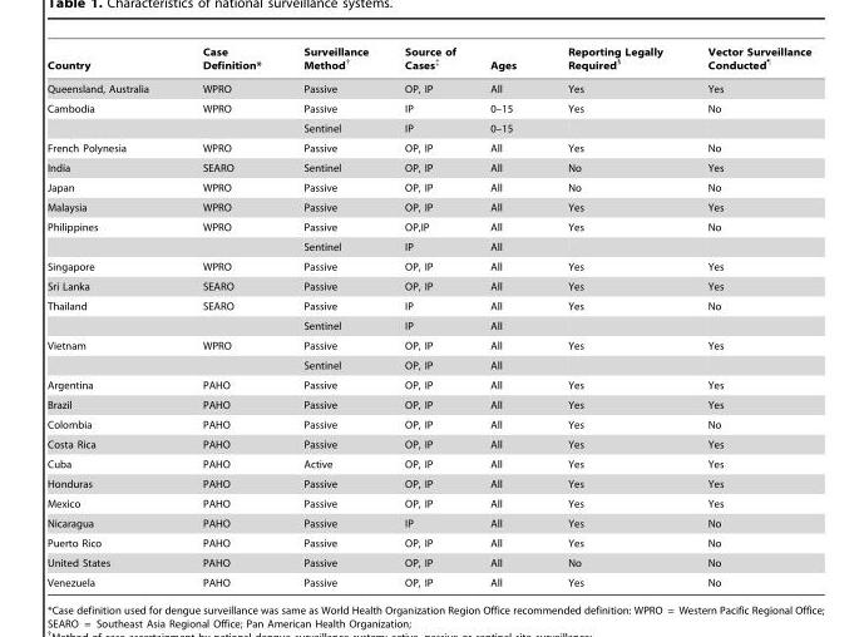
<table><thead><tr><td>Country</td><td>Case Definition*</td><td>Surveillance Method†</td><td>Source of Cases‡</td><td>Ages</td><td>Reporting Legally Required§</td><td>Vector Surveillance Conducted¶</td></tr></thead><tbody><tr><td>Queensland, Australia</td><td>WPRO</td><td>Passive</td><td>OP, IP</td><td>All</td><td>Yes</td><td>Yes</td></tr><tr><td rowspan="2">Cambodia</td><td>WPRO</td><td>Passive</td><td>IP</td><td>0–15</td><td>Yes</td><td>No</td></tr><tr><td></td><td>Sentinel</td><td>IP</td><td>0–15</td><td></td><td></td></tr><tr><td>French Polynesia</td><td>WPRO</td><td>Passive</td><td>OP, IP</td><td>All</td><td>Yes</td><td>No</td></tr><tr><td>India</td><td>SEARO</td><td>Sentinel</td><td>OP, IP</td><td>All</td><td>No</td><td>Yes</td></tr><tr><td>Japan</td><td>WPRO</td><td>Passive</td><td>OP, IP</td><td>All</td><td>No</td><td>No</td></tr><tr><td>Malaysia</td><td>WPRO</td><td>Passive</td><td>OP, IP</td><td>All</td><td>Yes</td><td>Yes</td></tr><tr><td rowspan="2">Philippines</td><td>WPRO</td><td>Passive</td><td>OP,IP</td><td>All</td><td>Yes</td><td>No</td></tr><tr><td></td><td>Sentinel</td><td>IP</td><td>All</td><td></td><td></td></tr><tr><td>Singapore</td><td>WPRO</td><td>Passive</td><td>OP, IP</td><td>All</td><td>Yes</td><td>Yes</td></tr><tr><td>Sri Lanka</td><td>SEARO</td><td>Passive</td><td>OP, IP</td><td>All</td><td>Yes</td><td>Yes</td></tr><tr><td rowspan="2">Thailand</td><td>SEARO</td><td>Passive</td><td>IP</td><td>All</td><td>Yes</td><td>No</td></tr><tr><td></td><td>Sentinel</td><td>IP</td><td>All</td><td></td><td></td></tr><tr><td rowspan="2">Vietnam</td><td>WPRO</td><td>Passive</td><td>OP, IP</td><td>All</td><td>Yes</td><td>Yes</td></tr><tr><td></td><td>Sentinel</td><td>OP, IP</td><td>All</td><td></td><td></td></tr><tr><td>Argentina</td><td>PAHO</td><td>Passive</td><td>OP, IP</td><td>All</td><td>Yes</td><td>Yes</td></tr><tr><td>Brazil</td><td>PAHO</td><td>Passive</td><td>OP, IP</td><td>All</td><td>Yes</td><td>Yes</td></tr><tr><td>Colombia</td><td>PAHO</td><td>Passive</td><td>OP, IP</td><td>All</td><td>Yes</td><td>No</td></tr><tr><td>Costa Rica</td><td>PAHO</td><td>Passive</td><td>OP, IP</td><td>All</td><td>Yes</td><td>Yes</td></tr><tr><td>Cuba</td><td>PAHO</td><td>Active</td><td>OP, IP</td><td>All</td><td>Yes</td><td>Yes</td></tr><tr><td>Honduras</td><td>PAHO</td><td>Passive</td><td>OP, IP</td><td>All</td><td>Yes</td><td>Yes</td></tr><tr><td>Mexico</td><td>PAHO</td><td>Passive</td><td>OP, IP</td><td>All</td><td>Yes</td><td>Yes</td></tr><tr><td>Nicaragua</td><td>PAHO</td><td>Passive</td><td>IP</td><td>All</td><td>Yes</td><td>No</td></tr><tr><td>Puerto Rico</td><td>PAHO</td><td>Passive</td><td>OP, IP</td><td>All</td><td>Yes</td><td>No</td></tr><tr><td>United States</td><td>PAHO</td><td>Passive</td><td>OP, IP</td><td>All</td><td>No</td><td>No</td></tr><tr><td>Venezuela</td><td>PAHO</td><td>Passive</td><td>OP, IP</td><td>All</td><td>Yes</td><td>No</td></tr></tbody></table>